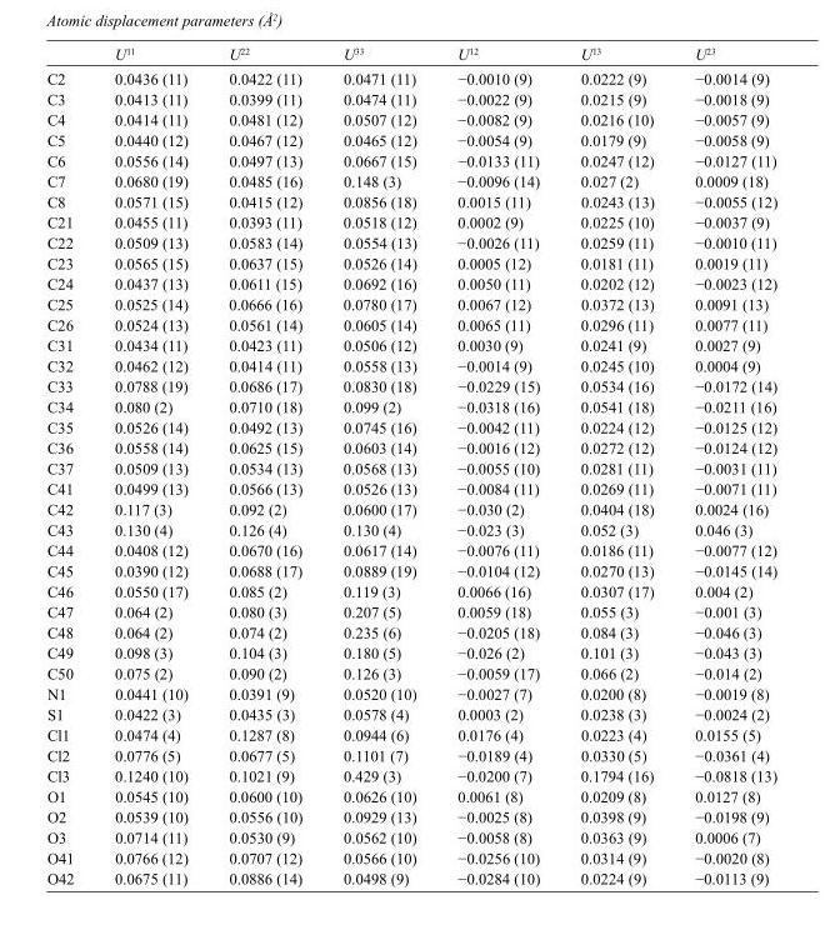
<table><thead><tr><td></td><td>U<sup>11</sup></td><td>U<sup>22</sup></td><td>U<sup>33</sup></td><td>U<sup>12</sup></td><td>U<sup>13</sup></td><td>U<sup>23</sup></td></tr></thead><tbody><tr><td>C2</td><td>0.0436 (11)</td><td>0.0422 (11)</td><td>0.0471 (11)</td><td>−0.0010 (9)</td><td>0.0222 (9)</td><td>−0.0014 (9)</td></tr><tr><td>C3</td><td>0.0413 (11)</td><td>0.0399 (11)</td><td>0.0474 (11)</td><td>−0.0022 (9)</td><td>0.0215 (9)</td><td>−0.0018 (9)</td></tr><tr><td>C4</td><td>0.0414 (11)</td><td>0.0481 (12)</td><td>0.0507 (12)</td><td>−0.0082 (9)</td><td>0.0216 (10)</td><td>−0.0057 (9)</td></tr><tr><td>C5</td><td>0.0440 (12)</td><td>0.0467 (12)</td><td>0.0465 (12)</td><td>−0.0054 (9)</td><td>0.0179 (9)</td><td>−0.0058 (9)</td></tr><tr><td>C6</td><td>0.0556 (14)</td><td>0.0497 (13)</td><td>0.0667 (15)</td><td>−0.0133 (11)</td><td>0.0247 (12)</td><td>−0.0127 (11)</td></tr><tr><td>C7</td><td>0.0680 (19)</td><td>0.0485 (16)</td><td>0.148 (3)</td><td>−0.0096 (14)</td><td>0.027 (2)</td><td>0.0009 (18)</td></tr><tr><td>C8</td><td>0.0571 (15)</td><td>0.0415 (12)</td><td>0.0856 (18)</td><td>0.0015 (11)</td><td>0.0243 (13)</td><td>−0.0055 (12)</td></tr><tr><td>C21</td><td>0.0455 (11)</td><td>0.0393 (11)</td><td>0.0518 (12)</td><td>0.0002 (9)</td><td>0.0225 (10)</td><td>−0.0037 (9)</td></tr><tr><td>C22</td><td>0.0509 (13)</td><td>0.0583 (14)</td><td>0.0554 (13)</td><td>−0.0026 (11)</td><td>0.0259 (11)</td><td>−0.0010 (11)</td></tr><tr><td>C23</td><td>0.0565 (15)</td><td>0.0637 (15)</td><td>0.0526 (14)</td><td>0.0005 (12)</td><td>0.0181 (11)</td><td>0.0019 (11)</td></tr><tr><td>C24</td><td>0.0437 (13)</td><td>0.0611 (15)</td><td>0.0692 (16)</td><td>0.0050 (11)</td><td>0.0202 (12)</td><td>−0.0023 (12)</td></tr><tr><td>C25</td><td>0.0525 (14)</td><td>0.0666 (16)</td><td>0.0780 (17)</td><td>0.0067 (12)</td><td>0.0372 (13)</td><td>0.0091 (13)</td></tr><tr><td>C26</td><td>0.0524 (13)</td><td>0.0561 (14)</td><td>0.0605 (14)</td><td>0.0065 (11)</td><td>0.0296 (11)</td><td>0.0077 (11)</td></tr><tr><td>C31</td><td>0.0434 (11)</td><td>0.0423 (11)</td><td>0.0506 (12)</td><td>0.0030 (9)</td><td>0.0241 (9)</td><td>0.0027 (9)</td></tr><tr><td>C32</td><td>0.0462 (12)</td><td>0.0414 (11)</td><td>0.0558 (13)</td><td>−0.0014 (9)</td><td>0.0245 (10)</td><td>0.0004 (9)</td></tr><tr><td>C33</td><td>0.0788 (19)</td><td>0.0686 (17)</td><td>0.0830 (18)</td><td>−0.0229 (15)</td><td>0.0534 (16)</td><td>−0.0172 (14)</td></tr><tr><td>C34</td><td>0.080 (2)</td><td>0.0710 (18)</td><td>0.099 (2)</td><td>−0.0318 (16)</td><td>0.0541 (18)</td><td>−0.0211 (16)</td></tr><tr><td>C35</td><td>0.0526 (14)</td><td>0.0492 (13)</td><td>0.0745 (16)</td><td>−0.0042 (11)</td><td>0.0224 (12)</td><td>−0.0125 (12)</td></tr><tr><td>C36</td><td>0.0558 (14)</td><td>0.0625 (15)</td><td>0.0603 (14)</td><td>−0.0016 (12)</td><td>0.0272 (12)</td><td>−0.0124 (12)</td></tr><tr><td>C37</td><td>0.0509 (13)</td><td>0.0534 (13)</td><td>0.0568 (13)</td><td>−0.0055 (10)</td><td>0.0281 (11)</td><td>−0.0031 (11)</td></tr><tr><td>C41</td><td>0.0499 (13)</td><td>0.0566 (13)</td><td>0.0526 (13)</td><td>−0.0084 (11)</td><td>0.0269 (11)</td><td>−0.0071 (11)</td></tr><tr><td>C42</td><td>0.117 (3)</td><td>0.092 (2)</td><td>0.0600 (17)</td><td>−0.030 (2)</td><td>0.0404 (18)</td><td>0.0024 (16)</td></tr><tr><td>C43</td><td>0.130 (4)</td><td>0.126 (4)</td><td>0.130 (4)</td><td>−0.023 (3)</td><td>0.052 (3)</td><td>0.046 (3)</td></tr><tr><td>C44</td><td>0.0408 (12)</td><td>0.0670 (16)</td><td>0.0617 (14)</td><td>−0.0076 (11)</td><td>0.0186 (11)</td><td>−0.0077 (12)</td></tr><tr><td>C45</td><td>0.0390 (12)</td><td>0.0688 (17)</td><td>0.0889 (19)</td><td>−0.0104 (12)</td><td>0.0270 (13)</td><td>−0.0145 (14)</td></tr><tr><td>C46</td><td>0.0550 (17)</td><td>0.085 (2)</td><td>0.119 (3)</td><td>0.0066 (16)</td><td>0.0307 (17)</td><td>0.004 (2)</td></tr><tr><td>C47</td><td>0.064 (2)</td><td>0.080 (3)</td><td>0.207 (5)</td><td>0.0059 (18)</td><td>0.055 (3)</td><td>−0.001 (3)</td></tr><tr><td>C48</td><td>0.064 (2)</td><td>0.074 (2)</td><td>0.235 (6)</td><td>−0.0205 (18)</td><td>0.084 (3)</td><td>−0.046 (3)</td></tr><tr><td>C49</td><td>0.098 (3)</td><td>0.104 (3)</td><td>0.180 (5)</td><td>−0.026 (2)</td><td>0.101 (3)</td><td>−0.043 (3)</td></tr><tr><td>C50</td><td>0.075 (2)</td><td>0.090 (2)</td><td>0.126 (3)</td><td>−0.0059 (17)</td><td>0.066 (2)</td><td>−0.014 (2)</td></tr><tr><td>N1</td><td>0.0441 (10)</td><td>0.0391 (9)</td><td>0.0520 (10)</td><td>−0.0027 (7)</td><td>0.0200 (8)</td><td>−0.0019 (8)</td></tr><tr><td>S1</td><td>0.0422 (3)</td><td>0.0435 (3)</td><td>0.0578 (4)</td><td>0.0003 (2)</td><td>0.0238 (3)</td><td>−0.0024 (2)</td></tr><tr><td>Cl1</td><td>0.0474 (4)</td><td>0.1287 (8)</td><td>0.0944 (6)</td><td>0.0176 (4)</td><td>0.0223 (4)</td><td>0.0155 (5)</td></tr><tr><td>Cl2</td><td>0.0776 (5)</td><td>0.0677 (5)</td><td>0.1101 (7)</td><td>−0.0189 (4)</td><td>0.0330 (5)</td><td>−0.0361 (4)</td></tr><tr><td>Cl3</td><td>0.1240 (10)</td><td>0.1021 (9)</td><td>0.429 (3)</td><td>−0.0200 (7)</td><td>0.1794 (16)</td><td>−0.0818 (13)</td></tr><tr><td>O1</td><td>0.0545 (10)</td><td>0.0600 (10)</td><td>0.0626 (10)</td><td>0.0061 (8)</td><td>0.0209 (8)</td><td>0.0127 (8)</td></tr><tr><td>O2</td><td>0.0539 (10)</td><td>0.0556 (10)</td><td>0.0929 (13)</td><td>−0.0025 (8)</td><td>0.0398 (9)</td><td>−0.0198 (9)</td></tr><tr><td>O3</td><td>0.0714 (11)</td><td>0.0530 (9)</td><td>0.0562 (10)</td><td>−0.0058 (8)</td><td>0.0363 (9)</td><td>0.0006 (7)</td></tr><tr><td>O41</td><td>0.0766 (12)</td><td>0.0707 (12)</td><td>0.0566 (10)</td><td>−0.0256 (10)</td><td>0.0314 (9)</td><td>−0.0020 (8)</td></tr><tr><td>O42</td><td>0.0675 (11)</td><td>0.0886 (14)</td><td>0.0498 (9)</td><td>−0.0284 (10)</td><td>0.0224 (9)</td><td>−0.0113 (9)</td></tr></tbody></table>